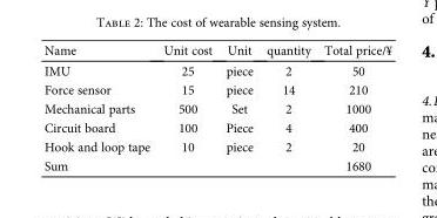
<table><thead><tr><td>Name</td><td>Unit cost</td><td>Unit</td><td>quantity</td><td>Total price/¥</td></tr></thead><tbody><tr><td>IMU</td><td>25</td><td>piece</td><td>2</td><td>50</td></tr><tr><td>Force sensor</td><td>15</td><td>piece</td><td>14</td><td>210</td></tr><tr><td>Mechanical parts</td><td>500</td><td>Set</td><td>2</td><td>1000</td></tr><tr><td>Circuit board</td><td>100</td><td>Piece</td><td>4</td><td>400</td></tr><tr><td>Hook and loop tape</td><td>10</td><td>piece</td><td>2</td><td>20</td></tr><tr><td>Sum</td><td></td><td></td><td></td><td>1680</td></tr></tbody></table>